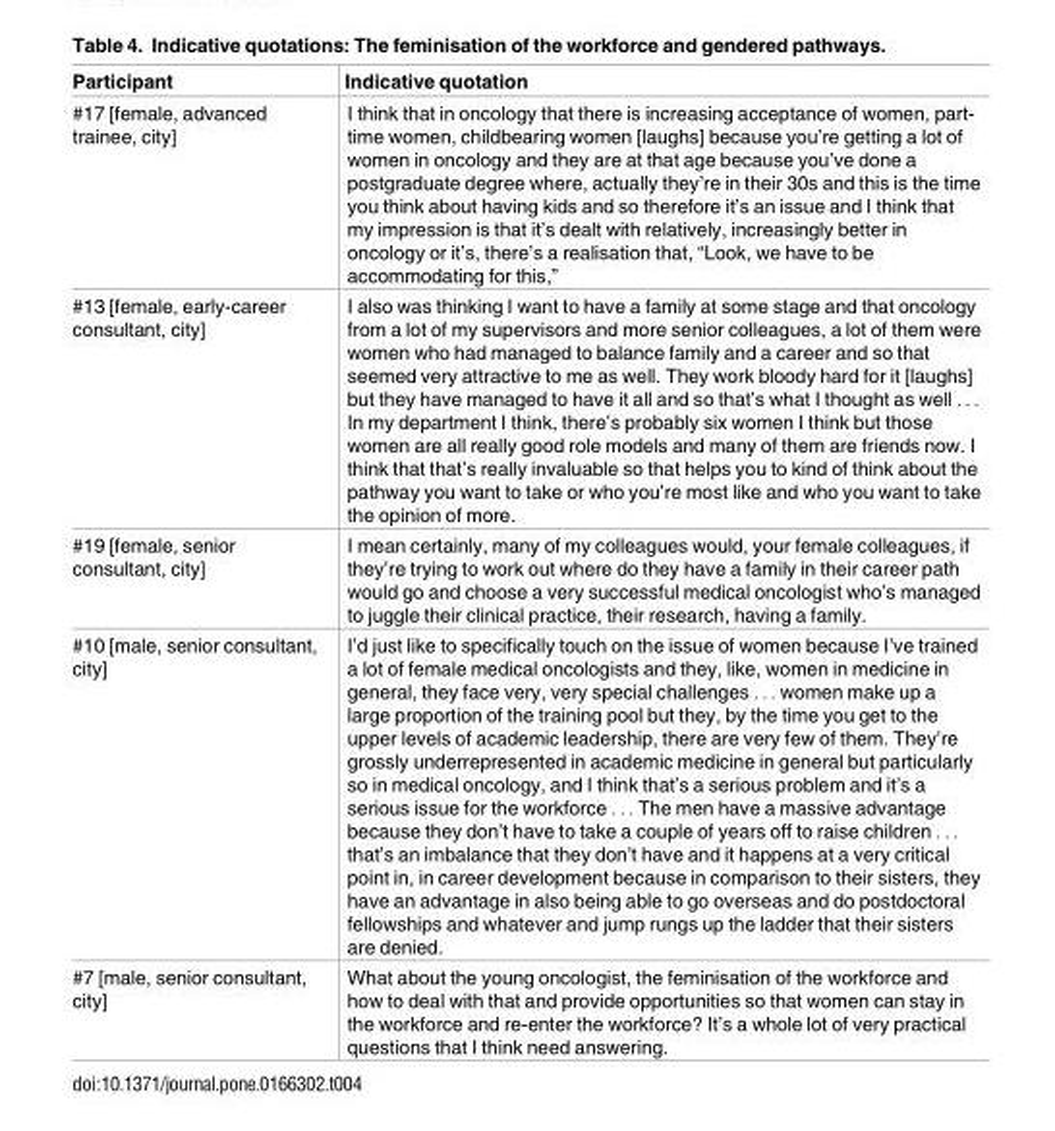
<table><thead><tr><td>Participant</td><td>Indicative quotation</td></tr></thead><tbody><tr><td>#17 [female, advanced trainee, city]</td><td>I think that in oncology that there is increasing acceptance of women, part- time women, childbearing women [laughs] because you’re getting a lot of women in oncology and they are at that age because you’ve done a postgraduate degree where, actually they’re in their 30s and this is the time you think about having kids and so therefore it’s an issue and I think that my impression is that it’s dealt with relatively, increasingly better in oncology or it’s, there’s a realisation that, “Look, we have to be accommodating for this,”</td></tr><tr><td>#13 [female, early-career consultant, city]</td><td>I also was thinking I want to have a family at some stage and that oncology from a lot of my supervisors and more senior colleagues, a lot of them were women who had managed to balance family and a career and so that seemed very attractive to me as well. They work bloody hard for it [laughs] but they have managed to have it all and so that’s what I thought as well . . . In my department I think, there’s probably six women I think but those women are all really good role models and many of them are friends now. I think that that’s really invaluable so that helps you to kind of think about the pathway you want to take or who you’re most like and who you want to take the opinion of more.</td></tr><tr><td>#19 [female, senior consultant, city]</td><td>I mean certainly, many of my colleagues would, your female colleagues, if they’re trying to work out where do they have a family in their career path would go and choose a very successful medical oncologist who’s managed to juggle their clinical practice, their research, having a family.</td></tr><tr><td>#10 [male, senior consultant, city]</td><td>I’d just like to specifically touch on the issue of women because I’ve trained a lot of female medical oncologists and they, like, women in medicine in general, they face very, very special challenges . . . women make up a large proportion of the training pool but they, by the time you get to the upper levels of academic leadership, there are very few of them. They’re grossly underrepresented in academic medicine in general but particularly so in medical oncology, and I think that’s a serious problem and it’s a serious issue for the workforce . . . The men have a massive advantage because they don’t have to take a couple of years off to raise children . . . that’s an imbalance that they don’t have and it happens at a very critical point in, in career development because in comparison to their sisters, they have an advantage in also being able to go overseas and do postdoctoral fellowships and whatever and jump rungs up the ladder that their sisters are denied.</td></tr><tr><td>#7 [male, senior consultant, city]</td><td>What about the young oncologist, the feminisation of the workforce and how to deal with that and provide opportunities so that women can stay in the workforce and re-enter the workforce? It’s a whole lot of very practical questions that I think need answering.</td></tr></tbody></table>